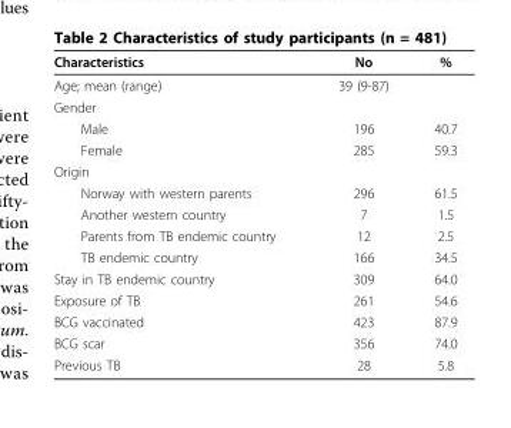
<table><thead><tr><td>Characteristics</td><td>No</td><td>%</td></tr></thead><tbody><tr><td>Age; mean (range)</td><td>39 (9-87)</td><td></td></tr><tr><td colspan="3">Gender</td></tr><tr><td>Male</td><td>196</td><td>40.7</td></tr><tr><td>Female</td><td>285</td><td>59.3</td></tr><tr><td colspan="3">Origin</td></tr><tr><td>Norway with western parents</td><td>296</td><td>61.5</td></tr><tr><td>Another western country</td><td>7</td><td>1.5</td></tr><tr><td>Parents from TB endemic country</td><td>12</td><td>2.5</td></tr><tr><td>TB endemic country</td><td>166</td><td>34.5</td></tr><tr><td>Stay in TB endemic country</td><td>309</td><td>64.0</td></tr><tr><td>Exposure of TB</td><td>261</td><td>54.6</td></tr><tr><td>BCG vaccinated</td><td>423</td><td>87.9</td></tr><tr><td>BCG scar</td><td>356</td><td>74.0</td></tr><tr><td>Previous TB</td><td>28</td><td>5.8</td></tr></tbody></table>